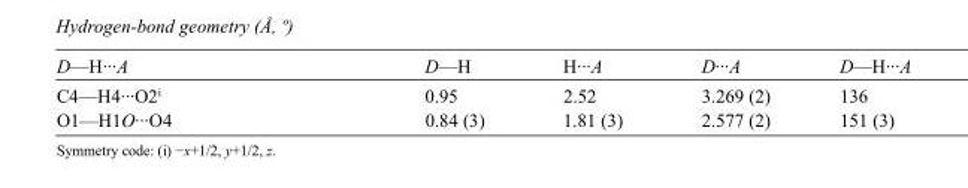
<table><tbody><tr><td>D—H···A</td><td>D—H</td><td>H···A</td><td>D···A</td><td>D—H···A</td></tr><tr><td>C4—H4···O2<sup>i</sup></td><td>0.95</td><td>2.52</td><td>3.269 (2)</td><td>136</td></tr><tr><td>O1—H1O···O4</td><td>0.84 (3)</td><td>1.81 (3)</td><td>2.577 (2)</td><td>151 (3)</td></tr></tbody></table>